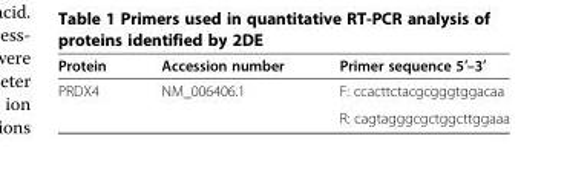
<table><thead><tr><td>Protein</td><td>Accession number</td><td>Primer sequence 5′–3′</td></tr></thead><tbody><tr><td rowspan="2">PRDX4</td><td rowspan="2">NM_006406.1</td><td>F: ccacttctacgcgggtggacaa</td></tr><tr><td>R: cagtagggcgctggcttggaaa</td></tr></tbody></table>